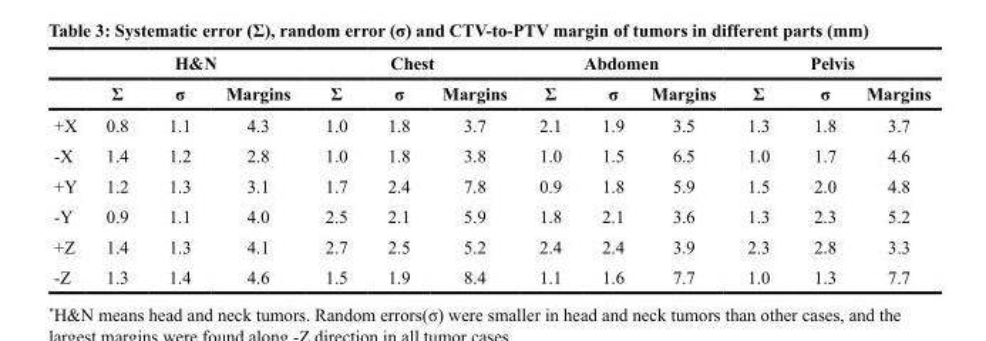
<table><thead><tr><td rowspan="2"></td><td colspan="3">H&amp;N</td><td colspan="3">Chest</td><td colspan="3">Abdomen</td><td colspan="3">Pelvis</td></tr><tr><td>Ʃ</td><td>σ</td><td>Margins</td><td>Ʃ</td><td>σ</td><td>Margins</td><td>Ʃ</td><td>σ</td><td>Margins</td><td>Ʃ</td><td>σ</td><td>Margins</td></tr></thead><tbody><tr><td>+X</td><td>0.8</td><td>1.1</td><td>4.3</td><td>1.0</td><td>1.8</td><td>3.7</td><td>2.1</td><td>1.9</td><td>3.5</td><td>1.3</td><td>1.8</td><td>3.7</td></tr><tr><td>-X</td><td>1.4</td><td>1.2</td><td>2.8</td><td>1.0</td><td>1.8</td><td>3.8</td><td>1.0</td><td>1.5</td><td>6.5</td><td>1.0</td><td>1.7</td><td>4.6</td></tr><tr><td>+Y</td><td>1.2</td><td>1.3</td><td>3.1</td><td>1.7</td><td>2.4</td><td>7.8</td><td>0.9</td><td>1.8</td><td>5.9</td><td>1.5</td><td>2.0</td><td>4.8</td></tr><tr><td>-Y</td><td>0.9</td><td>1.1</td><td>4.0</td><td>2.5</td><td>2.1</td><td>5.9</td><td>1.8</td><td>2.1</td><td>3.6</td><td>1.3</td><td>2.3</td><td>5.2</td></tr><tr><td>+Z</td><td>1.4</td><td>1.3</td><td>4.1</td><td>2.7</td><td>2.5</td><td>5.2</td><td>2.4</td><td>2.4</td><td>3.9</td><td>2.3</td><td>2.8</td><td>3.3</td></tr><tr><td>-Z</td><td>1.3</td><td>1.4</td><td>4.6</td><td>1.5</td><td>1.9</td><td>8.4</td><td>1.1</td><td>1.6</td><td>7.7</td><td>1.0</td><td>1.3</td><td>7.7</td></tr></tbody></table>